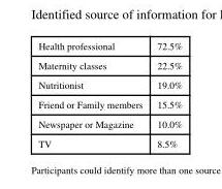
<table><tbody><tr><td>Health professional</td><td>72.5%</td></tr><tr><td>Maternity classes</td><td>22.5%</td></tr><tr><td>Nutritionist</td><td>19.0%</td></tr><tr><td>Friend or Family members</td><td>15.5%</td></tr><tr><td>Newspaper or Magazine</td><td>10.0%</td></tr><tr><td>TV</td><td>8.5%</td></tr></tbody></table>